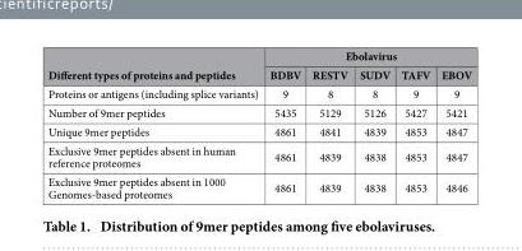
<table><thead><tr><td rowspan="2">Different types of proteins and peptides</td><td colspan="5">Ebolavirus</td></tr><tr><td>BDBV</td><td>RESTV</td><td>SUDV</td><td>TAFV</td><td>EBOV</td></tr></thead><tbody><tr><td>Proteins or antigens (including splice variants)</td><td>9</td><td>8</td><td>8</td><td>9</td><td>9</td></tr><tr><td>Number of 9mer peptides</td><td>5435</td><td>5129</td><td>5126</td><td>5427</td><td>5421</td></tr><tr><td>Unique 9mer peptides</td><td>4861</td><td>4841</td><td>4839</td><td>4853</td><td>4847</td></tr><tr><td>Exclusive 9mer peptides absent in human reference proteomes</td><td>4861</td><td>4839</td><td>4838</td><td>4853</td><td>4847</td></tr><tr><td>Exclusive 9mer peptides absent in 1000 Genomes-based proteomes</td><td>4861</td><td>4839</td><td>4838</td><td>4853</td><td>4846</td></tr></tbody></table>